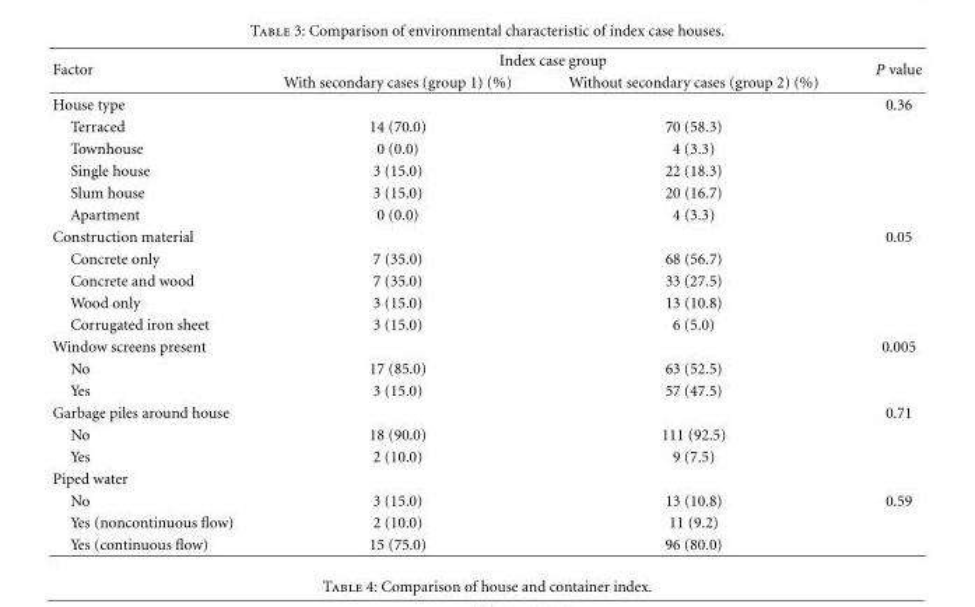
<table><thead><tr><td rowspan="2">Factor</td><td colspan="2">Index case group</td><td rowspan="2">P value</td></tr><tr><td>With secondary cases (group 1) (%)</td><td>Without secondary cases (group 2) (%)</td></tr></thead><tbody><tr><td>House type</td><td></td><td></td><td>0.36</td></tr><tr><td>Terraced</td><td>14 (70.0)</td><td>70 (58.3)</td><td></td></tr><tr><td>Townhouse</td><td>0 (0.0)</td><td>4 (3.3)</td><td></td></tr><tr><td>Single house</td><td>3 (15.0)</td><td>22 (18.3)</td><td></td></tr><tr><td>Slum house</td><td>3 (15.0)</td><td>20 (16.7)</td><td></td></tr><tr><td>Apartment</td><td>0 (0.0)</td><td>4 (3.3)</td><td></td></tr><tr><td>Construction material</td><td></td><td></td><td>0.05</td></tr><tr><td>Concrete only</td><td>7 (35.0)</td><td>68 (56.7)</td><td></td></tr><tr><td>Concrete and wood</td><td>7 (35.0)</td><td>33 (27.5)</td><td></td></tr><tr><td>Wood only</td><td>3 (15.0)</td><td>13 (10.8)</td><td></td></tr><tr><td>Corrugated iron sheet</td><td>3 (15.0)</td><td>6 (5.0)</td><td></td></tr><tr><td>Window screens present</td><td></td><td></td><td>0.005</td></tr><tr><td>No</td><td>17 (85.0)</td><td>63 (52.5)</td><td></td></tr><tr><td>Yes</td><td>3 (15.0)</td><td>57 (47.5)</td><td></td></tr><tr><td>Garbage piles around house</td><td></td><td></td><td>0.71</td></tr><tr><td>No</td><td>18 (90.0)</td><td>111 (92.5)</td><td></td></tr><tr><td>Yes</td><td>2 (10.0)</td><td>9 (7.5)</td><td></td></tr><tr><td colspan="4">Piped water</td></tr><tr><td>No</td><td>3 (15.0)</td><td>13 (10.8)</td><td>0.59</td></tr><tr><td>Yes (noncontinuous flow)</td><td>2 (10.0)</td><td>11 (9.2)</td><td></td></tr><tr><td>Yes (continuous flow)</td><td>15 (75.0)</td><td>96 (80.0)</td><td></td></tr></tbody></table>